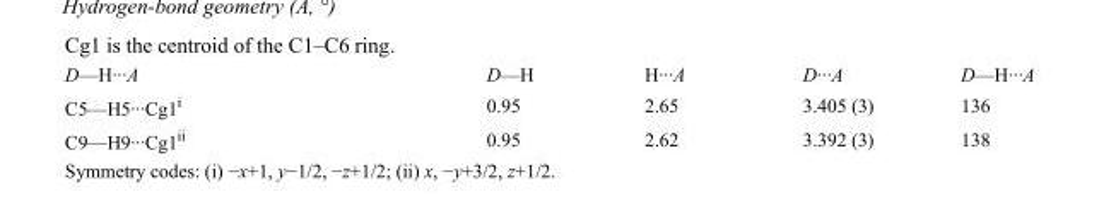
<table><tbody><tr><td>D—H···A</td><td>D—H</td><td>H···A</td><td>D···A</td><td>D—H···A</td></tr><tr><td>C5—H5···Cg1<sup>i</sup></td><td>0.95</td><td>2.65</td><td>3.405 (3)</td><td>136</td></tr><tr><td>C9—H9···Cg1<sup>ii</sup></td><td>0.95</td><td>2.62</td><td>3.392 (3)</td><td>138</td></tr></tbody></table>